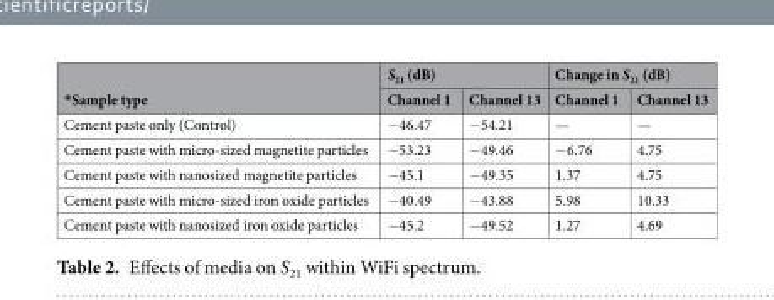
<table><thead><tr><td rowspan="2">*Sample type</td><td colspan="2">S<sub>21</sub> (dB)</td><td colspan="2">Change in S<sub>21</sub> (dB)</td></tr><tr><td>Channel 1</td><td>Channel 13</td><td>Channel 1</td><td>Channel 13</td></tr></thead><tbody><tr><td>Cement paste only (Control)</td><td>−46.47</td><td>−54.21</td><td>—</td><td>—</td></tr><tr><td>Cement paste with micro-sized magnetite particles</td><td>−53.23</td><td>−49.46</td><td>−6.76</td><td>4.75</td></tr><tr><td>Cement paste with nanosized magnetite particles</td><td>−45.1</td><td>−49.35</td><td>1.37</td><td>4.75</td></tr><tr><td>Cement paste with micro-sized iron oxide particles</td><td>−40.49</td><td>−43.88</td><td>5.98</td><td>10.33</td></tr><tr><td>Cement paste with nanosized iron oxide particles</td><td>−45.2</td><td>−49.52</td><td>1.27</td><td>4.69</td></tr></tbody></table>